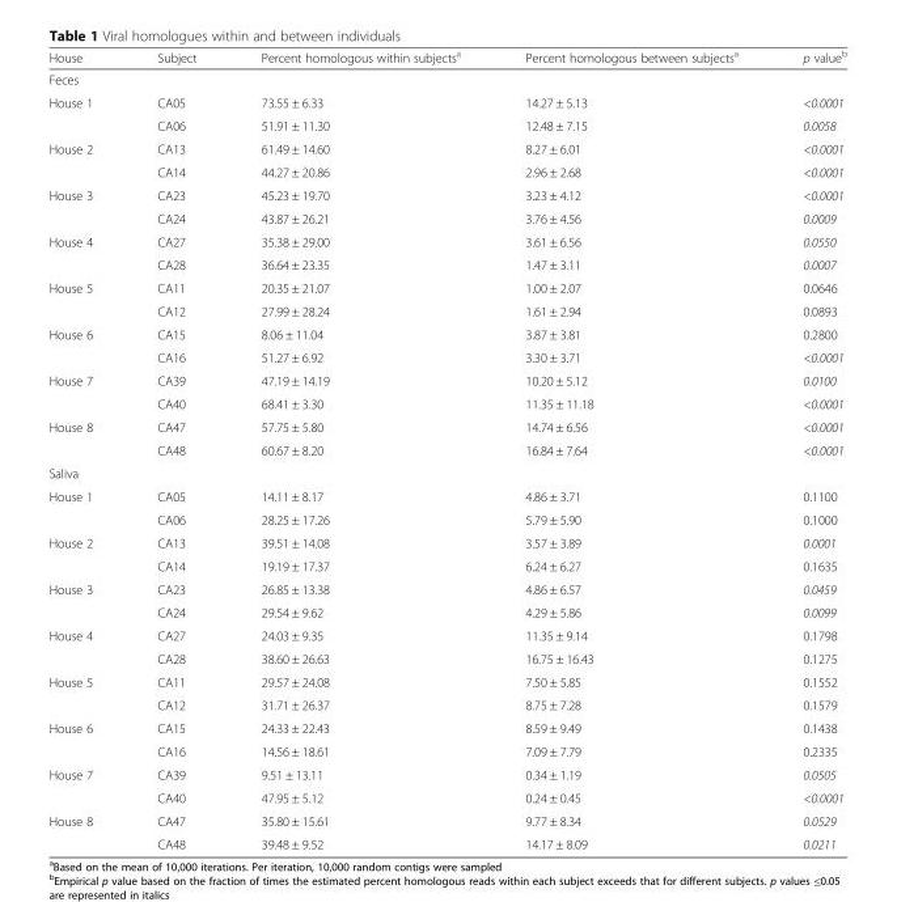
<table><thead><tr><td>House</td><td>Subject</td><td>Percent homologous within subjects<sup>a</sup></td><td>Percent homologous between subjects<sup>a</sup></td><td>p value<sup>b</sup></td></tr></thead><tbody><tr><td colspan="5">Feces</td></tr><tr><td rowspan="2">House 1</td><td>CA05</td><td>73.55 ± 6.33</td><td>14.27 ± 5.13</td><td>&lt;0.0001</td></tr><tr><td>CA06</td><td>51.91 ± 11.30</td><td>12.48 ± 7.15</td><td>0.0058</td></tr><tr><td rowspan="2">House 2</td><td>CA13</td><td>61.49 ± 14.60</td><td>8.27 ± 6.01</td><td>&lt;0.0001</td></tr><tr><td>CA14</td><td>44.27 ± 20.86</td><td>2.96 ± 2.68</td><td>&lt;0.0001</td></tr><tr><td rowspan="2">House 3</td><td>CA23</td><td>45.23 ± 19.70</td><td>3.23 ± 4.12</td><td>&lt;0.0001</td></tr><tr><td>CA24</td><td>43.87 ± 26.21</td><td>3.76 ± 4.56</td><td>0.0009</td></tr><tr><td rowspan="2">House 4</td><td>CA27</td><td>35.38 ± 29.00</td><td>3.61 ± 6.56</td><td>0.0550</td></tr><tr><td>CA28</td><td>36.64 ± 23.35</td><td>1.47 ± 3.11</td><td>0.0007</td></tr><tr><td rowspan="2">House 5</td><td>CA11</td><td>20.35 ± 21.07</td><td>1.00 ± 2.07</td><td>0.0646</td></tr><tr><td>CA12</td><td>27.99 ± 28.24</td><td>1.61 ± 2.94</td><td>0.0893</td></tr><tr><td rowspan="2">House 6</td><td>CA15</td><td>8.06 ± 11.04</td><td>3.87 ± 3.81</td><td>0.2800</td></tr><tr><td>CA16</td><td>51.27 ± 6.92</td><td>3.30 ± 3.71</td><td>&lt;0.0001</td></tr><tr><td rowspan="2">House 7</td><td>CA39</td><td>47.19 ± 14.19</td><td>10.20 ± 5.12</td><td>0.0100</td></tr><tr><td>CA40</td><td>68.41 ± 3.30</td><td>11.35 ± 11.18</td><td>&lt;0.0001</td></tr><tr><td rowspan="2">House 8</td><td>CA47</td><td>57.75 ± 5.80</td><td>14.74 ± 6.56</td><td>&lt;0.0001</td></tr><tr><td>CA48</td><td>60.67 ± 8.20</td><td>16.84 ± 7.64</td><td>&lt;0.0001</td></tr><tr><td colspan="5">Saliva</td></tr><tr><td rowspan="2">House 1</td><td>CA05</td><td>14.11 ± 8.17</td><td>4.86 ± 3.71</td><td>0.1100</td></tr><tr><td>CA06</td><td>28.25 ± 17.26</td><td>5.79 ± 5.90</td><td>0.1000</td></tr><tr><td rowspan="2">House 2</td><td>CA13</td><td>39.51 ± 14.08</td><td>3.57 ± 3.89</td><td>0.0001</td></tr><tr><td>CA14</td><td>19.19 ± 17.37</td><td>6.24 ± 6.27</td><td>0.1635</td></tr><tr><td rowspan="2">House 3</td><td>CA23</td><td>26.85 ± 13.38</td><td>4.86 ± 6.57</td><td>0.0459</td></tr><tr><td>CA24</td><td>29.54 ± 9.62</td><td>4.29 ± 5.86</td><td>0.0099</td></tr><tr><td rowspan="2">House 4</td><td>CA27</td><td>24.03 ± 9.35</td><td>11.35 ± 9.14</td><td>0.1798</td></tr><tr><td>CA28</td><td>38.60 ± 26.63</td><td>16.75 ± 16.43</td><td>0.1275</td></tr><tr><td rowspan="2">House 5</td><td>CA11</td><td>29.57 ± 24.08</td><td>7.50 ± 5.85</td><td>0.1552</td></tr><tr><td>CA12</td><td>31.71 ± 26.37</td><td>8.75 ± 7.28</td><td>0.1579</td></tr><tr><td rowspan="2">House 6</td><td>CA15</td><td>24.33 ± 22.43</td><td>8.59 ± 9.49</td><td>0.1438</td></tr><tr><td>CA16</td><td>14.56 ± 18.61</td><td>7.09 ± 7.79</td><td>0.2335</td></tr><tr><td rowspan="2">House 7</td><td>CA39</td><td>9.51 ± 13.11</td><td>0.34 ± 1.19</td><td>0.0505</td></tr><tr><td>CA40</td><td>47.95 ± 5.12</td><td>0.24 ± 0.45</td><td>&lt;0.0001</td></tr><tr><td rowspan="2">House 8</td><td>CA47</td><td>35.80 ± 15.61</td><td>9.77 ± 8.34</td><td>0.0529</td></tr><tr><td>CA48</td><td>39.48 ± 9.52</td><td>14.17 ± 8.09</td><td>0.0211</td></tr></tbody></table>